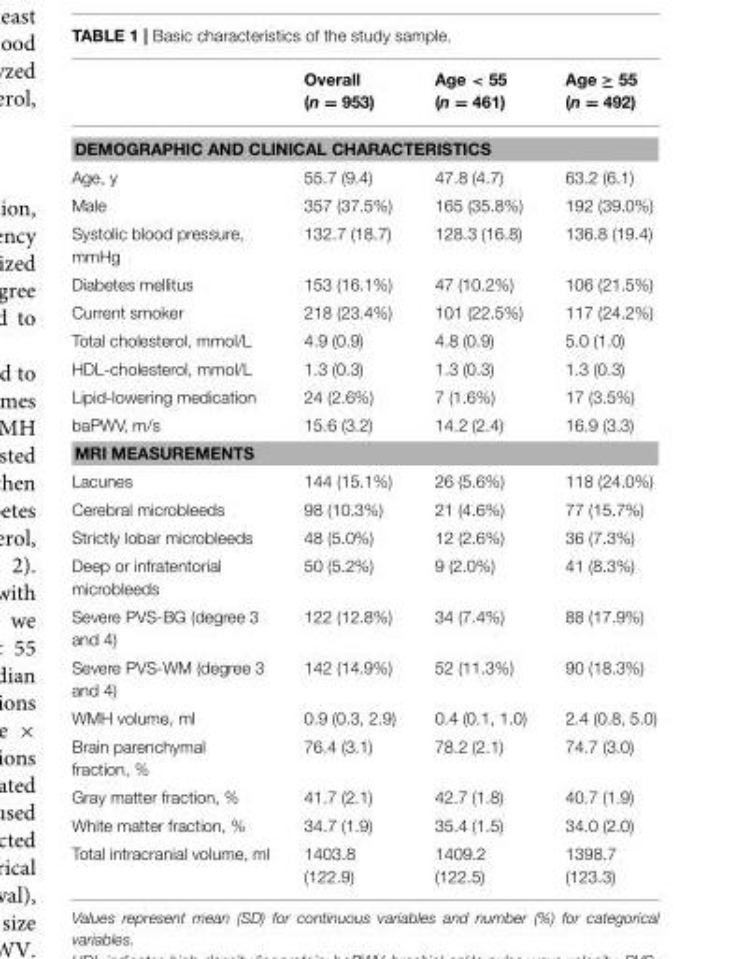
<table><thead><tr><td></td><td>Overall (n = 953)</td><td>Age &lt; 55 (n = 461)</td><td>Age ≥ 55 (n = 492)</td></tr></thead><tbody><tr><td colspan="4">DEMOGRAPHIC AND CLINICAL CHARACTERISTICS</td></tr><tr><td>Age, y</td><td>55.7 (9.4)</td><td>47.8 (4.7)</td><td>63.2 (6.1)</td></tr><tr><td>Male</td><td>357 (37.5%)</td><td>165 (35.8%)</td><td>192 (39.0%)</td></tr><tr><td>Systolic blood pressure, mmHg</td><td>132.7 (18.7)</td><td>128.3 (16.8)</td><td>136.8 (19.4)</td></tr><tr><td>Diabetes mellitus</td><td>153 (16.1%)</td><td>47 (10.2%)</td><td>106 (21.5%)</td></tr><tr><td>Current smoker</td><td>218 (23.4%)</td><td>101 (22.5%)</td><td>117 (24.2%)</td></tr><tr><td>Total cholesterol, mmol/L</td><td>4.9 (0.9)</td><td>4.8 (0.9)</td><td>5.0 (1.0)</td></tr><tr><td>HDL-cholesterol, mmol/L</td><td>1.3 (0.3)</td><td>1.3 (0.3)</td><td>1.3 (0.3)</td></tr><tr><td>Lipid-lowering medication</td><td>24 (2.6%)</td><td>7 (1.6%)</td><td>17 (3.5%)</td></tr><tr><td>baPWV, m/s</td><td>15.6 (3.2)</td><td>14.2 (2.4)</td><td>16.9 (3.3)</td></tr><tr><td colspan="4">MRI MEASUREMENTS</td></tr><tr><td>Lacunes</td><td>144 (15.1%)</td><td>26 (5.6%)</td><td>118 (24.0%)</td></tr><tr><td>Cerebral microbleeds</td><td>98 (10.3%)</td><td>21 (4.6%)</td><td>77 (15.7%)</td></tr><tr><td>Strictly lobar microbleeds</td><td>48 (5.0%)</td><td>12 (2.6%)</td><td>36 (7.3%)</td></tr><tr><td>Deep or infratentorial microbleeds</td><td>50 (5.2%)</td><td>9 (2.0%)</td><td>41 (8.3%)</td></tr><tr><td>Severe PVS-BG (degree 3 and 4)</td><td>122 (12.8%)</td><td>34 (7.4%)</td><td>88 (17.9%)</td></tr><tr><td>Severe PVS-WM (degree 3 and 4)</td><td>142 (14.9%)</td><td>52 (11.3%)</td><td>90 (18.3%)</td></tr><tr><td>WMH volume, ml</td><td>0.9 (0.3, 2.9)</td><td>0.4 (0.1, 1.0)</td><td>2.4 (0.8, 5.0)</td></tr><tr><td>Brain parenchymal fraction, %</td><td>76.4 (3.1)</td><td>78.2 (2.1)</td><td>74.7 (3.0)</td></tr><tr><td>Gray matter fraction, %</td><td>41.7 (2.1)</td><td>42.7 (1.8)</td><td>40.7 (1.9)</td></tr><tr><td>White matter fraction, %</td><td>34.7 (1.9)</td><td>35.4 (1.5)</td><td>34.0 (2.0)</td></tr><tr><td>Total intracranial volume, ml</td><td>1403.8 (122.9)</td><td>1409.2 (122.5)</td><td>1398.7 (123.3)</td></tr></tbody></table>